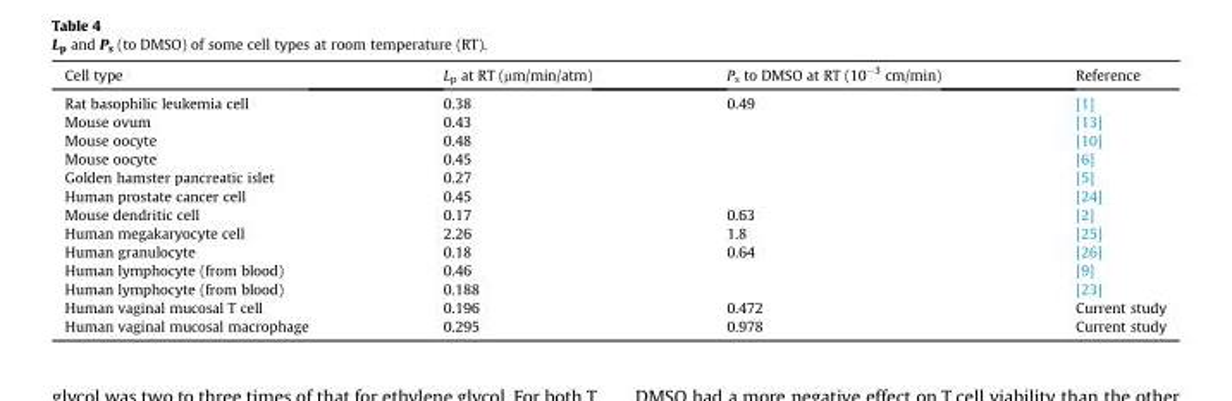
<table><thead><tr><td>Cell type</td><td>L<sub>p</sub> at RT (μm/min/atm)</td><td>P<sub>s</sub> to DMSO at RT (10<sup>−3</sup> cm/min)</td><td>Reference</td></tr></thead><tbody><tr><td>Rat basophilic leukemia cell</td><td>0.38</td><td>0.49</td><td>[1]</td></tr><tr><td>Mouse ovum</td><td>0.43</td><td></td><td>[13]</td></tr><tr><td>Mouse oocyte</td><td>0.48</td><td></td><td>[10]</td></tr><tr><td>Mouse oocyte</td><td>0.45</td><td></td><td>[6]</td></tr><tr><td>Golden hamster pancreatic islet</td><td>0.27</td><td></td><td>[5]</td></tr><tr><td>Human prostate cancer cell</td><td>0.45</td><td></td><td>[24]</td></tr><tr><td>Mouse dendritic cell</td><td>0.17</td><td>0.63</td><td>[2]</td></tr><tr><td>Human megakaryocyte cell</td><td>2.26</td><td>1.8</td><td>[25]</td></tr><tr><td>Human granulocyte</td><td>0.18</td><td>0.64</td><td>[26]</td></tr><tr><td>Human lymphocyte (from blood)</td><td>0.46</td><td></td><td>[9]</td></tr><tr><td>Human lymphocyte (from blood)</td><td>0.188</td><td></td><td>[23]</td></tr><tr><td>Human vaginal mucosal T cell</td><td>0.196</td><td>0.472</td><td>Current study</td></tr><tr><td>Human vaginal mucosal macrophage</td><td>0.295</td><td>0.978</td><td>Current study</td></tr></tbody></table>